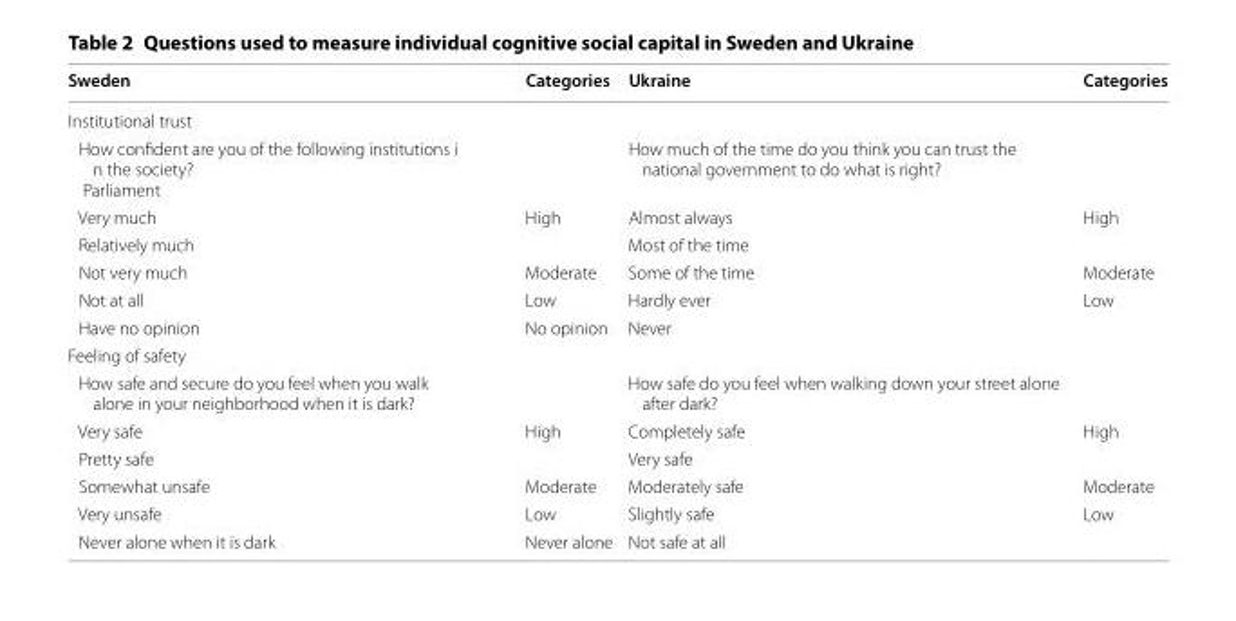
<table><thead><tr><td>Sweden</td><td>Categories</td><td>Ukraine</td><td>Categories</td></tr></thead><tbody><tr><td colspan="4">Institutional trust</td></tr><tr><td>How confident are you of the following institutions i n the society? Parliament</td><td></td><td>How much of the time do you think you can trust the national government to do what is right?</td><td></td></tr><tr><td>Very much</td><td rowspan="2">High</td><td>Almost always</td><td rowspan="2">High</td></tr><tr><td>Relatively much</td><td>Most of the time</td></tr><tr><td>Not very much</td><td>Moderate</td><td>Some of the time</td><td>Moderate</td></tr><tr><td>Not at all</td><td>Low</td><td>Hardly ever</td><td>Low</td></tr><tr><td>Have no opinion</td><td>No opinion</td><td>Never</td><td></td></tr><tr><td colspan="4">Feeling of safety</td></tr><tr><td>How safe and secure do you feel when you walk alone in your neighborhood when it is dark?</td><td></td><td>How safe do you feel when walking down your street alone after dark?</td><td></td></tr><tr><td>Very safe</td><td rowspan="2">High</td><td>Completely safe</td><td rowspan="2">High</td></tr><tr><td>Pretty safe</td><td>Very safe</td></tr><tr><td>Somewhat unsafe</td><td>Moderate</td><td>Moderately safe</td><td>Moderate</td></tr><tr><td>Very unsafe</td><td>Low</td><td>Slightly safe</td><td rowspan="2">Low</td></tr><tr><td>Never alone when it is dark</td><td>Never alone</td><td>Not safe at all</td></tr></tbody></table>